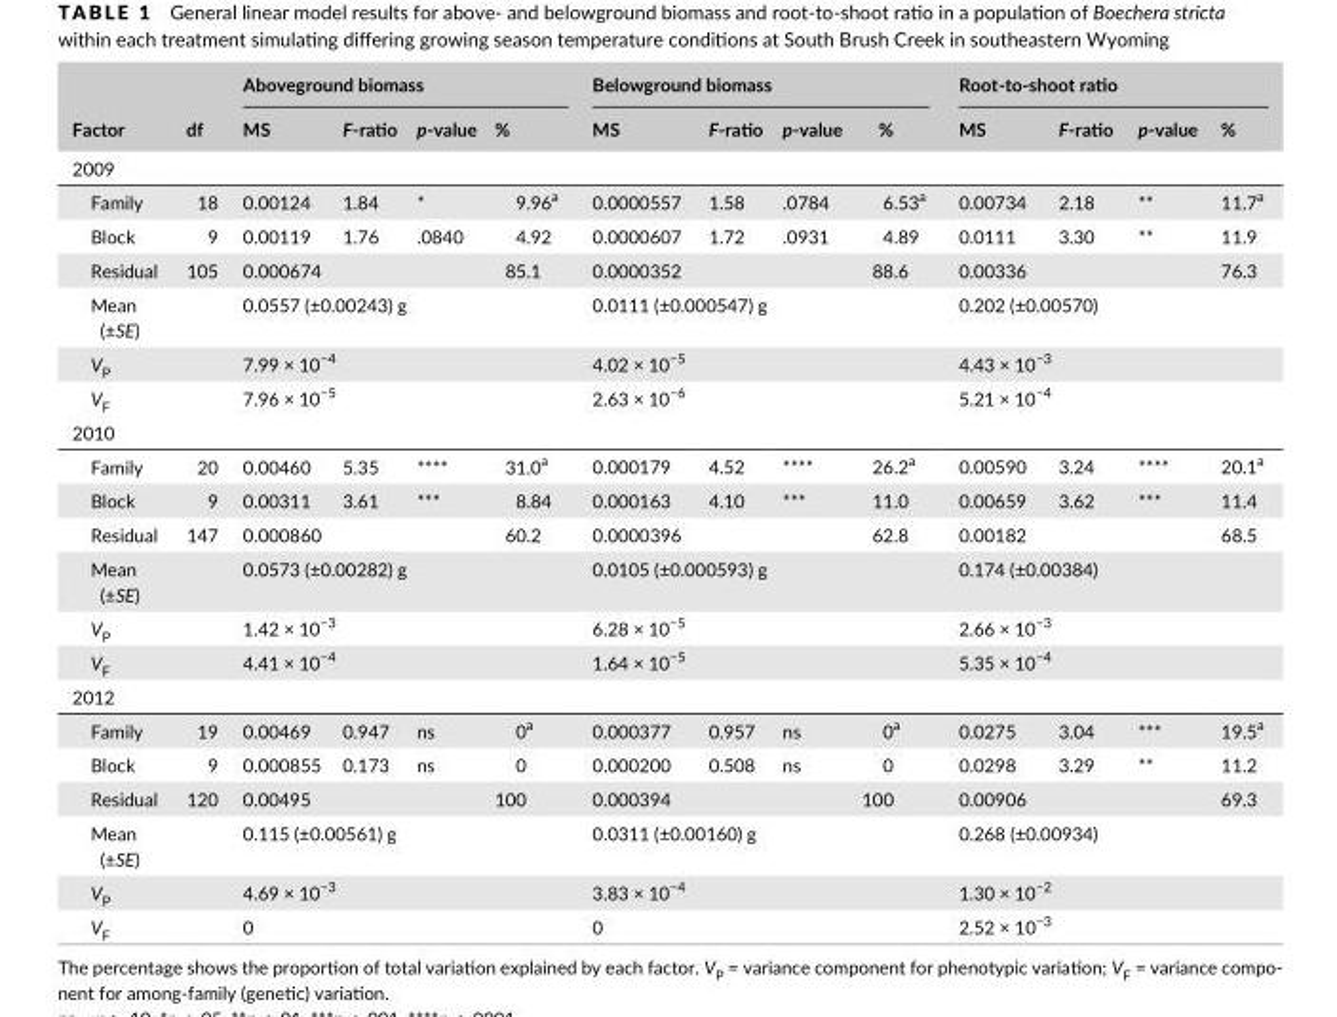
<table><thead><tr><td rowspan="2">Factor</td><td rowspan="2">df</td><td colspan="4">Aboveground biomass</td><td colspan="4">Belowground biomass</td><td colspan="4">Root- to- shoot ratio</td></tr><tr><td>MS</td><td>F- ratio</td><td>p- value</td><td>%</td><td>MS</td><td>F- ratio</td><td>p- value</td><td>%</td><td>MS</td><td>F- ratio</td><td>p- value</td><td>%</td></tr></thead><tbody><tr><td colspan="14">2009</td></tr><tr><td>Family</td><td>18</td><td>0.00124</td><td>1.84</td><td>*</td><td>9.96<sup>a</sup></td><td>0.0000557</td><td>1.58</td><td>.0784</td><td>6.53<sup>a</sup></td><td>0.00734</td><td>2.18</td><td>**</td><td>11.7<sup>a</sup></td></tr><tr><td>Block</td><td>9</td><td>0.00119</td><td>1.76</td><td>.0840</td><td>4.92</td><td>0.0000607</td><td>1.72</td><td>.0931</td><td>4.89</td><td>0.0111</td><td>3.30</td><td>**</td><td>11.9</td></tr><tr><td>Residual</td><td>105</td><td>0.000674</td><td></td><td></td><td>85.1</td><td>0.0000352</td><td></td><td></td><td>88.6</td><td>0.00336</td><td></td><td></td><td>76.3</td></tr><tr><td>Mean (±SE)</td><td></td><td colspan="4">0.0557 (±0.00243) g</td><td colspan="4">0.0111 (±0.000547) g</td><td colspan="4">0.202 (±0.00570)</td></tr><tr><td>V<sub>P</sub></td><td></td><td colspan="4">7.99 × 10<sup>−4</sup></td><td colspan="4">4.02 × 10<sup>−5</sup></td><td colspan="4">4.43 × 10<sup>−3</sup></td></tr><tr><td>V<sub>F</sub></td><td></td><td colspan="4">7.96 × 10<sup>−5</sup></td><td colspan="4">2.63 × 10<sup>−6</sup></td><td colspan="4">5.21 × 10<sup>−4</sup></td></tr><tr><td colspan="14">2010</td></tr><tr><td>Family</td><td>20</td><td>0.00460</td><td>5.35</td><td>****</td><td>31.0<sup>a</sup></td><td>0.000179</td><td>4.52</td><td>****</td><td>26.2<sup>a</sup></td><td>0.00590</td><td>3.24</td><td>****</td><td>20.1<sup>a</sup></td></tr><tr><td>Block</td><td>9</td><td>0.00311</td><td>3.61</td><td>***</td><td>8.84</td><td>0.000163</td><td>4.10</td><td>***</td><td>11.0</td><td>0.00659</td><td>3.62</td><td>***</td><td>11.4</td></tr><tr><td>Residual</td><td>147</td><td>0.000860</td><td></td><td></td><td>60.2</td><td>0.0000396</td><td></td><td></td><td>62.8</td><td>0.00182</td><td></td><td></td><td>68.5</td></tr><tr><td>Mean (±SE)</td><td></td><td colspan="4">0.0573 (±0.00282) g</td><td colspan="4">0.0105 (±0.000593) g</td><td colspan="4">0.174 (±0.00384)</td></tr><tr><td>V<sub>P</sub></td><td></td><td colspan="4">1.42 × 10<sup>−3</sup></td><td colspan="4">6.28 × 10<sup>−5</sup></td><td colspan="4">2.66 × 10<sup>−3</sup></td></tr><tr><td>V<sub>F</sub></td><td></td><td colspan="4">4.41 × 10<sup>−4</sup></td><td colspan="4">1.64 × 10<sup>−5</sup></td><td colspan="4">5.35 × 10<sup>−4</sup></td></tr><tr><td colspan="14">2012</td></tr><tr><td>Family</td><td>19</td><td>0.00469</td><td>0.947</td><td>ns</td><td>0<sup>a</sup></td><td>0.000377</td><td>0.957</td><td>ns</td><td>0<sup>a</sup></td><td>0.0275</td><td>3.04</td><td>***</td><td>19.5<sup>a</sup></td></tr><tr><td>Block</td><td>9</td><td>0.000855</td><td>0.173</td><td>ns</td><td>0</td><td>0.000200</td><td>0.508</td><td>ns</td><td>0</td><td>0.0298</td><td>3.29</td><td>**</td><td>11.2</td></tr><tr><td>Residual</td><td>120</td><td>0.00495</td><td></td><td></td><td>100</td><td>0.000394</td><td></td><td></td><td>100</td><td>0.00906</td><td></td><td></td><td>69.3</td></tr><tr><td>Mean (±SE)</td><td></td><td colspan="4">0.115 (±0.00561) g</td><td colspan="4">0.0311 (±0.00160) g</td><td colspan="4">0.268 (±0.00934)</td></tr><tr><td>V<sub>P</sub></td><td></td><td colspan="4">4.69 × 10<sup>−3</sup></td><td colspan="4">3.83 × 10<sup>−4</sup></td><td colspan="4">1.30 × 10<sup>−2</sup></td></tr><tr><td>V<sub>F</sub></td><td></td><td colspan="4">0</td><td colspan="4">0</td><td colspan="4">2.52 × 10<sup>−3</sup></td></tr></tbody></table>